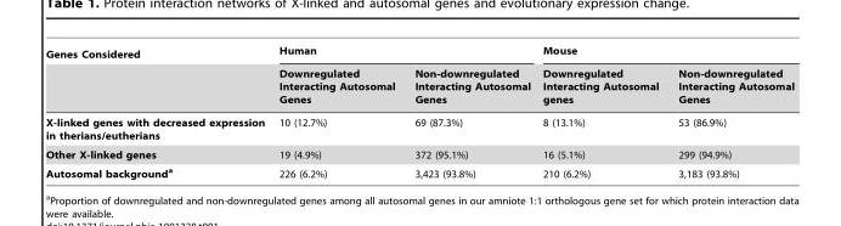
<table><thead><tr><td rowspan="2">Genes Considered</td><td colspan="2">Human</td><td colspan="2">Mouse</td></tr><tr><td>Downregulated Interacting Autosomal Genes</td><td>Non-downregulated Interacting Autosomal Genes</td><td>Downregulated Interacting Autosomal genes</td><td>Non-downregulated Interacting Autosomal Genes</td></tr></thead><tbody><tr><td>X-linked genes with decreased expression in therians/eutherians</td><td>10 (12.7%)</td><td>69 (87.3%)</td><td>8 (13.1%)</td><td>53 (86.9%)</td></tr><tr><td>Other X-linked genes</td><td>19 (4.9%)</td><td>372 (95.1%)</td><td>16 (5.1%)</td><td>299 (94.9%)</td></tr><tr><td>Autosomal backgrounda</td><td>226 (6.2%)</td><td>3,423 (93.8%)</td><td>210 (6.2%)</td><td>3,183 (93.8%)</td></tr></tbody></table>